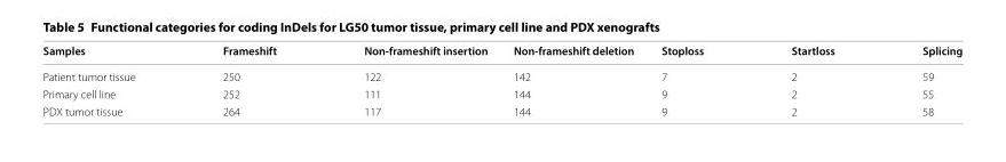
<table><thead><tr><td>Samples</td><td>Frameshift</td><td>Non‑frameshift insertion</td><td>Non‑frameshift deletion</td><td>Stoploss</td><td>Startloss</td><td>Splicing</td></tr></thead><tbody><tr><td>Patient tumor tissue</td><td>250</td><td>122</td><td>142</td><td>7</td><td>2</td><td>59</td></tr><tr><td>Primary cell line</td><td>252</td><td>111</td><td>144</td><td>9</td><td>2</td><td>55</td></tr><tr><td>PDX tumor tissue</td><td>264</td><td>117</td><td>144</td><td>9</td><td>2</td><td>58</td></tr></tbody></table>